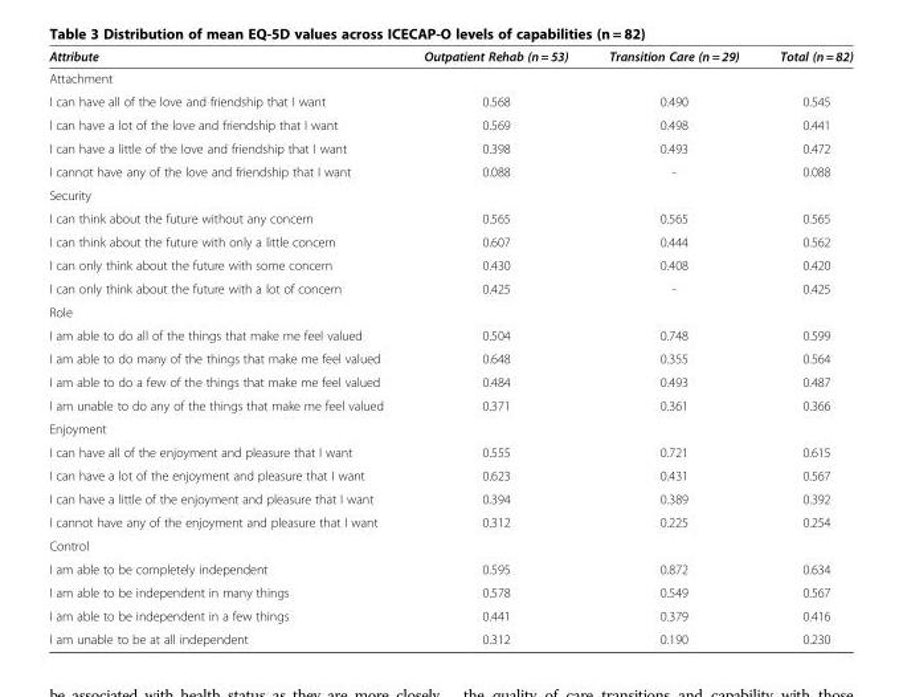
<table><thead><tr><td>Attribute</td><td>Outpatient Rehab (n = 53)</td><td>Transition Care (n = 29)</td><td>Total (n = 82)</td></tr></thead><tbody><tr><td colspan="4">Attachment</td></tr><tr><td>I can have all of the love and friendship that I want</td><td>0.568</td><td>0.490</td><td>0.545</td></tr><tr><td>I can have a lot of the love and friendship that I want</td><td>0.569</td><td>0.498</td><td>0.441</td></tr><tr><td>I can have a little of the love and friendship that I want</td><td>0.398</td><td>0.493</td><td>0.472</td></tr><tr><td>I cannot have any of the love and friendship that I want</td><td>0.088</td><td>-</td><td>0.088</td></tr><tr><td colspan="4">Security</td></tr><tr><td>I can think about the future without any concern</td><td>0.565</td><td>0.565</td><td>0.565</td></tr><tr><td>I can think about the future with only a little concern</td><td>0.607</td><td>0.444</td><td>0.562</td></tr><tr><td>I can only think about the future with some concern</td><td>0.430</td><td>0.408</td><td>0.420</td></tr><tr><td>I can only think about the future with a lot of concern</td><td>0.425</td><td>-</td><td>0.425</td></tr><tr><td colspan="4">Role</td></tr><tr><td>I am able to do all of the things that make me feel valued</td><td>0.504</td><td>0.748</td><td>0.599</td></tr><tr><td>I am able to do many of the things that make me feel valued</td><td>0.648</td><td>0.355</td><td>0.564</td></tr><tr><td>I am able to do a few of the things that make me feel valued</td><td>0.484</td><td>0.493</td><td>0.487</td></tr><tr><td>I am unable to do any of the things that make me feel valued</td><td>0.371</td><td>0.361</td><td>0.366</td></tr><tr><td colspan="4">Enjoyment</td></tr><tr><td>I can have all of the enjoyment and pleasure that I want</td><td>0.555</td><td>0.721</td><td>0.615</td></tr><tr><td>I can have a lot of the enjoyment and pleasure that I want</td><td>0.623</td><td>0.431</td><td>0.567</td></tr><tr><td>I can have a little of the enjoyment and pleasure that I want</td><td>0.394</td><td>0.389</td><td>0.392</td></tr><tr><td>I cannot have any of the enjoyment and pleasure that I want</td><td>0.312</td><td>0.225</td><td>0.254</td></tr><tr><td colspan="4">Control</td></tr><tr><td>I am able to be completely independent</td><td>0.595</td><td>0.872</td><td>0.634</td></tr><tr><td>I am able to be independent in many things</td><td>0.578</td><td>0.549</td><td>0.567</td></tr><tr><td>I am able to be independent in a few things</td><td>0.441</td><td>0.379</td><td>0.416</td></tr><tr><td>I am unable to be at all independent</td><td>0.312</td><td>0.190</td><td>0.230</td></tr></tbody></table>